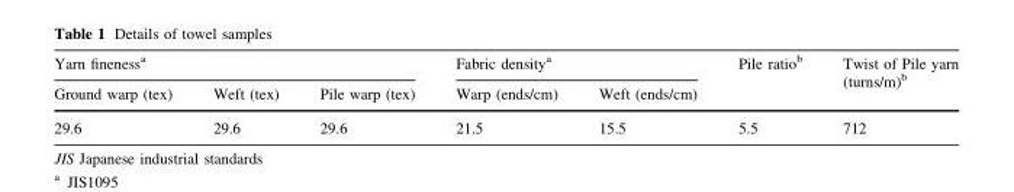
<table><thead><tr><td colspan="3">Yarn fineness<sup>a</sup></td><td colspan="2">Fabric density<sup>a</sup></td><td rowspan="2">Pile ratio<sup>b</sup></td><td rowspan="2">Twist of Pile yarn (turns/m)<sup>b</sup></td></tr><tr><td>Ground warp (tex)</td><td>Weft (tex)</td><td>Pile warp (tex)</td><td>Warp (ends/cm)</td><td>Weft (ends/cm)</td></tr></thead><tbody><tr><td>29.6</td><td>29.6</td><td>29.6</td><td>21.5</td><td>15.5</td><td>5.5</td><td>712</td></tr></tbody></table>